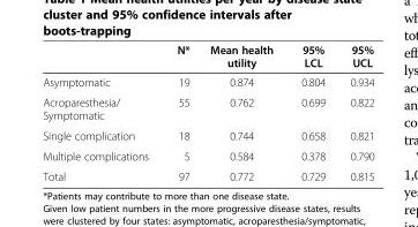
<table><thead><tr><td></td><td>N*</td><td>Mean health utility</td><td>95% LCL</td><td>95% UCL</td></tr></thead><tbody><tr><td>Asymptomatic</td><td>19</td><td>0.874</td><td>0.804</td><td>0.934</td></tr><tr><td>Acroparesthesia/ Symptomatic</td><td>55</td><td>0.762</td><td>0.699</td><td>0.822</td></tr><tr><td>Single complication</td><td>18</td><td>0.744</td><td>0.658</td><td>0.821</td></tr><tr><td>Multiple complications</td><td>5</td><td>0.584</td><td>0.378</td><td>0.790</td></tr><tr><td>Total</td><td>97</td><td>0.772</td><td>0.729</td><td>0.815</td></tr></tbody></table>